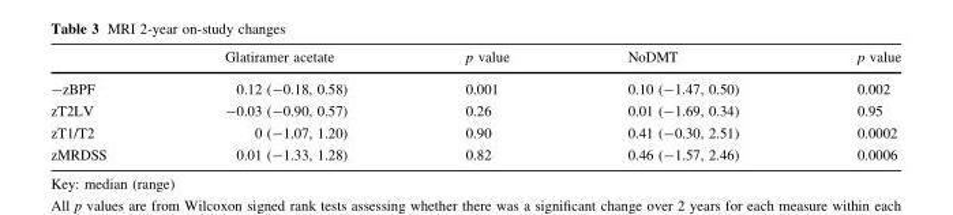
<table><thead><tr><td></td><td>Glatiramer acetate</td><td>p value</td><td>NoDMT</td><td>p value</td></tr></thead><tbody><tr><td>-zBPF</td><td>0.12 (-0.18, 0.58)</td><td>0.001</td><td>0.10 (-1.47, 0.50)</td><td>0.002</td></tr><tr><td>zT2LV</td><td>-0.03 (-0.90, 0.57)</td><td>0.26</td><td>0.01 (-1.69, 0.34)</td><td>0.95</td></tr><tr><td>zT1/T2</td><td>0 (-1.07, 1.20)</td><td>0.90</td><td>0.41 (-0.30, 2.51)</td><td>0.0002</td></tr><tr><td>zMRDSS</td><td>0.01 (-1.33, 1.28)</td><td>0.82</td><td>0.46 (-1.57, 2.46)</td><td>0.0006</td></tr></tbody></table>